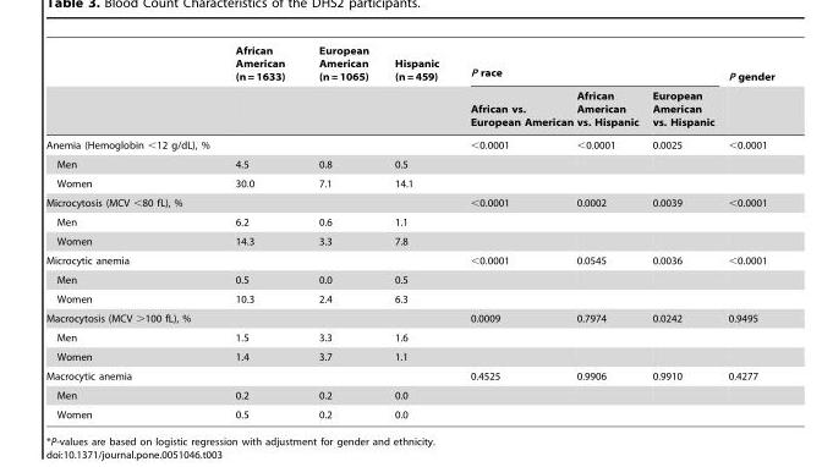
<table><thead><tr><td rowspan="2"></td><td rowspan="2">African American (n = 1633)</td><td rowspan="2">European American (n = 1065)</td><td rowspan="2">Hispanic (n = 459)</td><td colspan="3">P race</td><td rowspan="2">P gender</td></tr><tr><td>African vs. European American</td><td>African American vs. Hispanic</td><td>European American vs. Hispanic</td></tr></thead><tbody><tr><td>Anemia (Hemoglobin &lt;12 g/dL), %</td><td></td><td></td><td></td><td>&lt;0.0001</td><td>&lt;0.0001</td><td>0.0025</td><td>&lt;0.0001</td></tr><tr><td>Men</td><td>4.5</td><td>0.8</td><td>0.5</td><td></td><td></td><td></td><td></td></tr><tr><td>Women</td><td>30.0</td><td>7.1</td><td>14.1</td><td></td><td></td><td></td><td></td></tr><tr><td>Microcytosis (MCV &lt;80 fL), %</td><td></td><td></td><td></td><td>&lt;0.0001</td><td>0.0002</td><td>0.0039</td><td>&lt;0.0001</td></tr><tr><td>Men</td><td>6.2</td><td>0.6</td><td>1.1</td><td></td><td></td><td></td><td></td></tr><tr><td>Women</td><td>14.3</td><td>3.3</td><td>7.8</td><td></td><td></td><td></td><td></td></tr><tr><td>Microcytic anemia</td><td></td><td></td><td></td><td>&lt;0.0001</td><td>0.0545</td><td>0.0036</td><td>&lt;0.0001</td></tr><tr><td>Men</td><td>0.5</td><td>0.0</td><td>0.5</td><td></td><td></td><td></td><td></td></tr><tr><td>Women</td><td>10.3</td><td>2.4</td><td>6.3</td><td></td><td></td><td></td><td></td></tr><tr><td>Macrocytosis (MCV &gt;100 fL), %</td><td></td><td></td><td></td><td>0.0009</td><td>0.7974</td><td>0.0242</td><td>0.9495</td></tr><tr><td>Men</td><td>1.5</td><td>3.3</td><td>1.6</td><td></td><td></td><td></td><td></td></tr><tr><td>Women</td><td>1.4</td><td>3.7</td><td>1.1</td><td></td><td></td><td></td><td></td></tr><tr><td>Macrocytic anemia</td><td></td><td></td><td></td><td>0.4525</td><td>0.9906</td><td>0.9910</td><td>0.4277</td></tr><tr><td>Men</td><td>0.2</td><td>0.2</td><td>0.0</td><td></td><td></td><td></td><td></td></tr><tr><td>Women</td><td>0.5</td><td>0.2</td><td>0.0</td><td></td><td></td><td></td><td></td></tr></tbody></table>